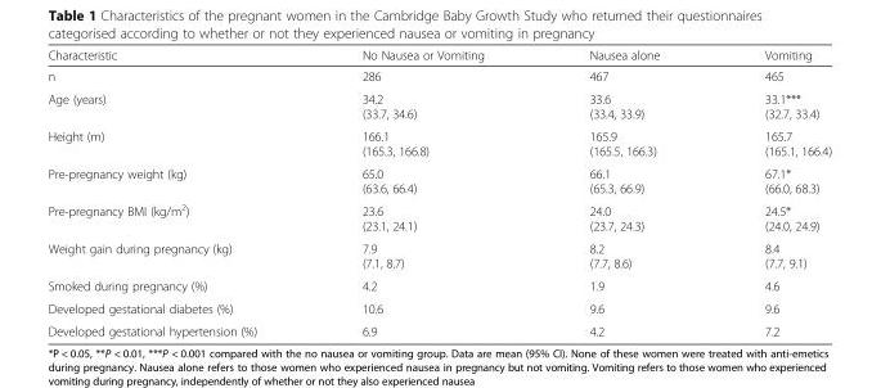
<table><thead><tr><td>Characteristic</td><td>No Nausea or Vomiting</td><td>Nausea alone</td><td>Vomiting</td></tr></thead><tbody><tr><td>n</td><td>286</td><td>467</td><td>465</td></tr><tr><td>Age (years)</td><td>34.2 (33.7, 34.6)</td><td>33.6 (33.4, 33.9)</td><td>33.1*** (32.7, 33.4)</td></tr><tr><td>Height (m)</td><td>166.1 (165.3, 166.8)</td><td>165.9 (165.5, 166.3)</td><td>165.7 (165.1, 166.4)</td></tr><tr><td>Pre-pregnancy weight (kg)</td><td>65.0 (63.6, 66.4)</td><td>66.1 (65.3, 66.9)</td><td>67.1* (66.0, 68.3)</td></tr><tr><td>Pre-pregnancy BMI (kg/m<sup>2</sup>)</td><td>23.6 (23.1, 24.1)</td><td>24.0 (23.7, 24.3)</td><td>24.5* (24.0, 24.9)</td></tr><tr><td>Weight gain during pregnancy (kg)</td><td>7.9 (7.1, 8.7)</td><td>8.2 (7.7, 8.6)</td><td>8.4 (7.7, 9.1)</td></tr><tr><td>Smoked during pregnancy (%)</td><td>4.2</td><td>1.9</td><td>4.6</td></tr><tr><td>Developed gestational diabetes (%)</td><td>10.6</td><td>9.6</td><td>9.6</td></tr><tr><td>Developed gestational hypertension (%)</td><td>6.9</td><td>4.2</td><td>7.2</td></tr></tbody></table>